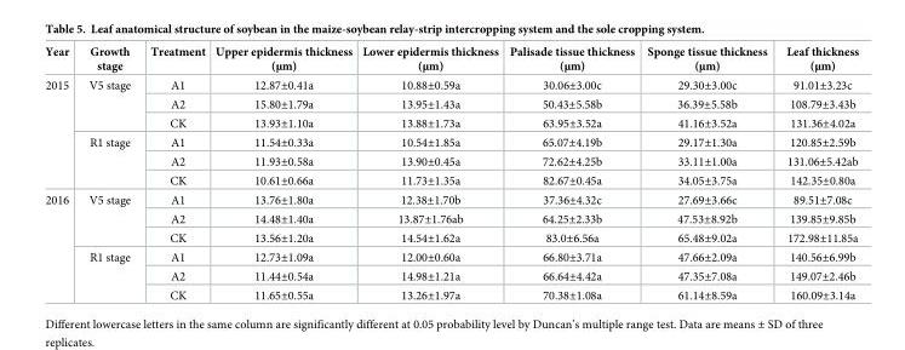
<table><thead><tr><td>Year</td><td>Growth stage</td><td>Treatment</td><td>Upper epidermis thickness (μm)</td><td>Lower epidermis thickness (μm)</td><td>Palisade tissue thickness (μm)</td><td>Sponge tissue thickness (μm)</td><td>Leaf thickness (μm)</td></tr></thead><tbody><tr><td rowspan="6">2015</td><td rowspan="3">V5 stage</td><td>A1</td><td>12.87±0.41a</td><td>10.88±0.59a</td><td>30.06±3.00c</td><td>29.30±3.00c</td><td>91.01±3.23c</td></tr><tr><td>A2</td><td>15.80±1.79a</td><td>13.95±1.43a</td><td>50.43±5.58b</td><td>36.39±5.58b</td><td>108.79±3.43b</td></tr><tr><td>CK</td><td>13.93±1.10a</td><td>13.88±1.73a</td><td>63.95±3.52a</td><td>41.16±3.52a</td><td>131.36±4.02a</td></tr><tr><td rowspan="3">R1 stage</td><td>A1</td><td>11.54±0.33a</td><td>10.54±1.85a</td><td>65.07±4.19b</td><td>29.17±1.30a</td><td>120.85±2.59b</td></tr><tr><td>A2</td><td>11.93±0.58a</td><td>13.90±0.45a</td><td>72.62±4.25b</td><td>33.11±1.00a</td><td>131.06±5.42ab</td></tr><tr><td>CK</td><td>10.61±0.66a</td><td>11.73±1.35a</td><td>82.67±0.45a</td><td>34.05±3.75a</td><td>142.35±0.80a</td></tr><tr><td rowspan="6">2016</td><td rowspan="3">V5 stage</td><td>A1</td><td>13.76±1.80a</td><td>12.38±1.70b</td><td>37.36±4.32c</td><td>27.69±3.66c</td><td>89.51±7.08c</td></tr><tr><td>A2</td><td>14.48±1.40a</td><td>13.87±1.76ab</td><td>64.25±2.33b</td><td>47.53±8.92b</td><td>139.85±9.85b</td></tr><tr><td>CK</td><td>13.56±1.20a</td><td>14.54±1.62a</td><td>83.0±6.56a</td><td>65.48±9.02a</td><td>172.98±11.85a</td></tr><tr><td rowspan="3">R1 stage</td><td>A1</td><td>12.73±1.09a</td><td>12.00±0.60a</td><td>66.80±3.71a</td><td>47.66±2.09a</td><td>140.56±6.99b</td></tr><tr><td>A2</td><td>11.44±0.54a</td><td>14.98±1.21a</td><td>66.64±4.42a</td><td>47.35±7.08a</td><td>149.07±2.46b</td></tr><tr><td>CK</td><td>11.65±0.55a</td><td>13.26±1.97a</td><td>70.38±1.08a</td><td>61.14±8.59a</td><td>160.09±3.14a</td></tr></tbody></table>